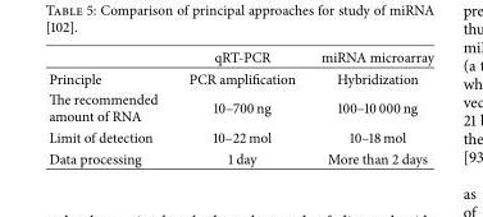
<table><thead><tr><td></td><td>qRT-PCR</td><td>miRNA microarray</td></tr></thead><tbody><tr><td>Principle</td><td>PCR amplification</td><td>Hybridization</td></tr><tr><td>The recommended amount of RNA</td><td>10–700 ng</td><td>100–10 000 ng</td></tr><tr><td>Limit of detection</td><td>10–22 mol</td><td>10–18 mol</td></tr><tr><td>Data processing</td><td>1 day</td><td>More than 2 days</td></tr></tbody></table>